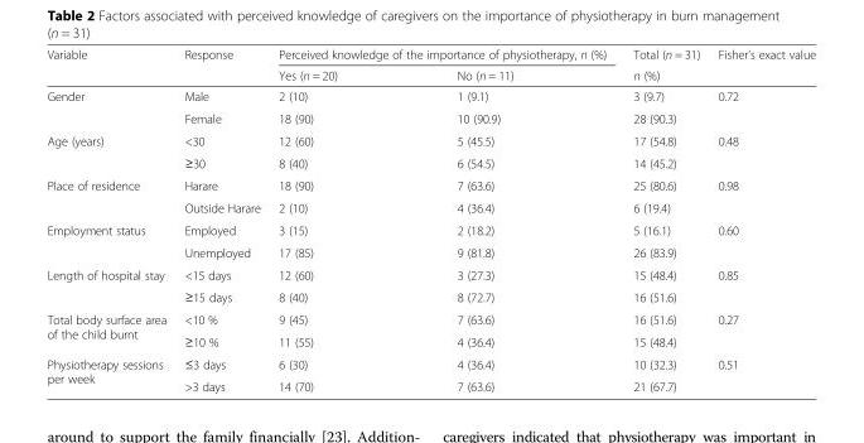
<table><thead><tr><td rowspan="2">Variable</td><td rowspan="2">Response</td><td colspan="2">Perceived knowledge of the importance of physiotherapy, n (%)</td><td rowspan="2">Total (n = 31) n (%)</td><td rowspan="2">Fisher’s exact value</td></tr><tr><td>Yes (n = 20)</td><td>No (n = 11)</td></tr></thead><tbody><tr><td rowspan="2">Gender</td><td>Male</td><td>2 (10)</td><td>1 (9.1)</td><td>3 (9.7)</td><td>0.72</td></tr><tr><td>Female</td><td>18 (90)</td><td>10 (90.9)</td><td>28 (90.3)</td><td></td></tr><tr><td rowspan="2">Age (years)</td><td>&lt;30</td><td>12 (60)</td><td>5 (45.5)</td><td>17 (54.8)</td><td>0.48</td></tr><tr><td>≥30</td><td>8 (40)</td><td>6 (54.5)</td><td>14 (45.2)</td><td></td></tr><tr><td rowspan="2">Place of residence</td><td>Harare</td><td>18 (90)</td><td>7 (63.6)</td><td>25 (80.6)</td><td>0.98</td></tr><tr><td>Outside Harare</td><td>2 (10)</td><td>4 (36.4)</td><td>6 (19.4)</td><td></td></tr><tr><td rowspan="2">Employment status</td><td>Employed</td><td>3 (15)</td><td>2 (18.2)</td><td>5 (16.1)</td><td>0.60</td></tr><tr><td>Unemployed</td><td>17 (85)</td><td>9 (81.8)</td><td>26 (83.9)</td><td></td></tr><tr><td rowspan="2">Length of hospital stay</td><td>&lt;15 days</td><td>12 (60)</td><td>3 (27.3)</td><td>15 (48.4)</td><td>0.85</td></tr><tr><td>≥15 days</td><td>8 (40)</td><td>8 (72.7)</td><td>16 (51.6)</td><td></td></tr><tr><td rowspan="2">Total body surface area of the child burnt</td><td>&lt;10 %</td><td>9 (45)</td><td>7 (63.6)</td><td>16 (51.6)</td><td>0.27</td></tr><tr><td>≥10 %</td><td>11 (55)</td><td>4 (36.4)</td><td>15 (48.4)</td><td></td></tr><tr><td rowspan="2">Physiotherapy sessions per week</td><td>≤3 days</td><td>6 (30)</td><td>4 (36.4)</td><td>10 (32.3)</td><td>0.51</td></tr><tr><td>&gt;3 days</td><td>14 (70)</td><td>7 (63.6)</td><td>21 (67.7)</td><td></td></tr></tbody></table>